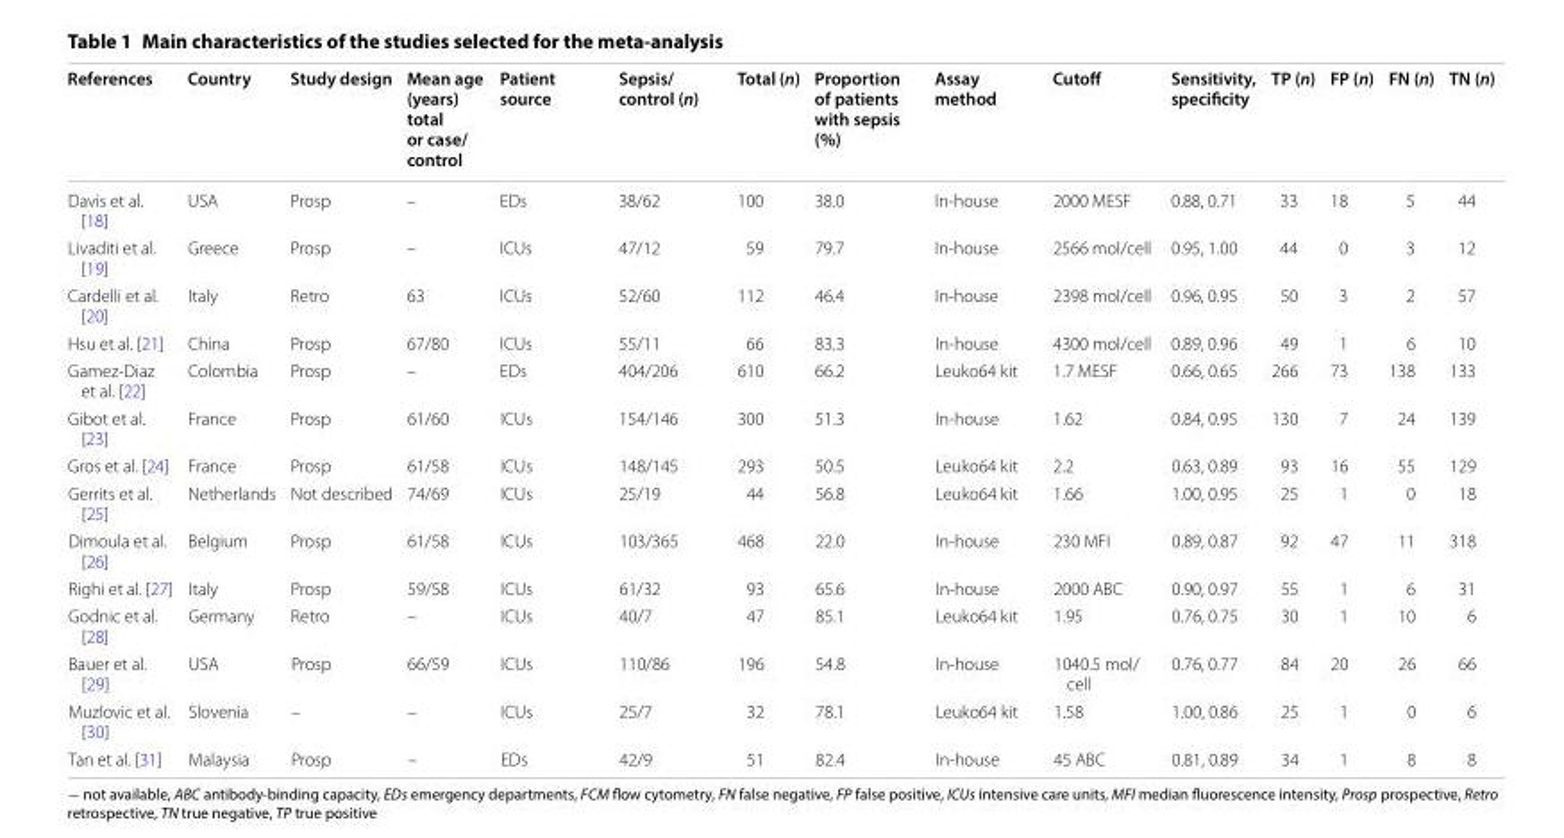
<table><thead><tr><td>References</td><td>Country</td><td>Study design</td><td>Mean age (years) total or case/ control</td><td>Patient source</td><td>Sepsis/ control (n)</td><td>Total (n)</td><td>Proportion of patients with sepsis (%)</td><td>Assay method</td><td>Cutoff</td><td>Sensitivity, specificity</td><td>TP (n)</td><td>FP (n)</td><td>FN (n)</td><td>TN (n)</td></tr></thead><tbody><tr><td>Davis et al. [18]</td><td>USA</td><td>Prosp</td><td>–</td><td>EDs</td><td>38/62</td><td>100</td><td>38.0</td><td>In‑house</td><td>2000 MESF</td><td>0.88, 0.71</td><td>33</td><td>18</td><td>5</td><td>44</td></tr><tr><td>Livaditi et al. [19]</td><td>Greece</td><td>Prosp</td><td>–</td><td>ICUs</td><td>47/12</td><td>59</td><td>79.7</td><td>In‑house</td><td>2566 mol/cell</td><td>0.95, 1.00</td><td>44</td><td>0</td><td>3</td><td>12</td></tr><tr><td>Cardelli et al. [20]</td><td>Italy</td><td>Retro</td><td>63</td><td>ICUs</td><td>52/60</td><td>112</td><td>46.4</td><td>In‑house</td><td>2398 mol/cell</td><td>0.96, 0.95</td><td>50</td><td>3</td><td>2</td><td>57</td></tr><tr><td>Hsu et al. [21]</td><td>China</td><td>Prosp</td><td>67/80</td><td>ICUs</td><td>55/11</td><td>66</td><td>83.3</td><td>In‑house</td><td>4300 mol/cell</td><td>0.89, 0.96</td><td>49</td><td>1</td><td>6</td><td>10</td></tr><tr><td>Gamez‑Diaz et al. [22]</td><td>Colombia</td><td>Prosp</td><td>–</td><td>EDs</td><td>404/206</td><td>610</td><td>66.2</td><td>Leuko64 kit</td><td>1.7 MESF</td><td>0.66, 0.65</td><td>266</td><td>73</td><td>138</td><td>133</td></tr><tr><td>Gibot et al. [23]</td><td>France</td><td>Prosp</td><td>61/60</td><td>ICUs</td><td>154/146</td><td>300</td><td>51.3</td><td>In‑house</td><td>1.62</td><td>0.84, 0.95</td><td>130</td><td>7</td><td>24</td><td>139</td></tr><tr><td>Gros et al. [24]</td><td>France</td><td>Prosp</td><td>61/58</td><td>ICUs</td><td>148/145</td><td>293</td><td>50.5</td><td>Leuko64 kit</td><td>2.2</td><td>0.63, 0.89</td><td>93</td><td>16</td><td>55</td><td>129</td></tr><tr><td>Gerrits et al. [25]</td><td>Netherlands</td><td>Not described</td><td>74/69</td><td>ICUs</td><td>25/19</td><td>44</td><td>56.8</td><td>Leuko64 kit</td><td>1.66</td><td>1.00, 0.95</td><td>25</td><td>1</td><td>0</td><td>18</td></tr><tr><td>Dimoula et al. [26]</td><td>Belgium</td><td>Prosp</td><td>61/58</td><td>ICUs</td><td>103/365</td><td>468</td><td>22.0</td><td>In‑house</td><td>230 MFI</td><td>0.89, 0.87</td><td>92</td><td>47</td><td>11</td><td>318</td></tr><tr><td>Righi et al. [27]</td><td>Italy</td><td>Prosp</td><td>59/58</td><td>ICUs</td><td>61/32</td><td>93</td><td>65.6</td><td>In‑house</td><td>2000 ABC</td><td>0.90, 0.97</td><td>55</td><td>1</td><td>6</td><td>31</td></tr><tr><td>Godnic et al. [28]</td><td>Germany</td><td>Retro</td><td>–</td><td>ICUs</td><td>40/7</td><td>47</td><td>85.1</td><td>Leuko64 kit</td><td>1.95</td><td>0.76, 0.75</td><td>30</td><td>1</td><td>10</td><td>6</td></tr><tr><td>Bauer et al. [29]</td><td>USA</td><td>Prosp</td><td>66/59</td><td>ICUs</td><td>110/86</td><td>196</td><td>54.8</td><td>In‑house</td><td>1040.5 mol/ cell</td><td>0.76, 0.77</td><td>84</td><td>20</td><td>26</td><td>66</td></tr><tr><td>Muzlovic et al. [30]</td><td>Slovenia</td><td>–</td><td>–</td><td>ICUs</td><td>25/7</td><td>32</td><td>78.1</td><td>Leuko64 kit</td><td>1.58</td><td>1.00, 0.86</td><td>25</td><td>1</td><td>0</td><td>6</td></tr><tr><td>Tan et al. [31]</td><td>Malaysia</td><td>Prosp</td><td>–</td><td>EDs</td><td>42/9</td><td>51</td><td>82.4</td><td>In‑house</td><td>45 ABC</td><td>0.81, 0.89</td><td>34</td><td>1</td><td>8</td><td>8</td></tr></tbody></table>